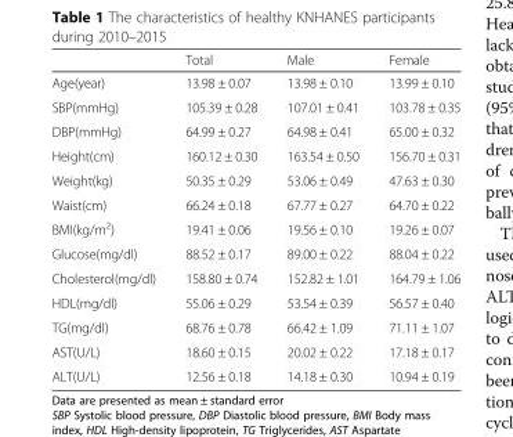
<table><thead><tr><td></td><td>Total</td><td>Male</td><td>Female</td></tr></thead><tbody><tr><td>Age(year)</td><td>13.98 ± 0.07</td><td>13.98 ± 0.10</td><td>13.99 ± 0.10</td></tr><tr><td>SBP(mmHg)</td><td>105.39 ± 0.28</td><td>107.01 ± 0.41</td><td>103.78 ± 0.35</td></tr><tr><td>DBP(mmHg)</td><td>64.99 ± 0.27</td><td>64.98 ± 0.41</td><td>65.00 ± 0.32</td></tr><tr><td>Height(cm)</td><td>160.12 ± 0.30</td><td>163.54 ± 0.50</td><td>156.70 ± 0.31</td></tr><tr><td>Weight(kg)</td><td>50.35 ± 0.29</td><td>53.06 ± 0.49</td><td>47.63 ± 0.30</td></tr><tr><td>Waist(cm)</td><td>66.24 ± 0.18</td><td>67.77 ± 0.27</td><td>64.70 ± 0.22</td></tr><tr><td>BMI(kg/m<sup>2</sup>)</td><td>19.41 ± 0.06</td><td>19.56 ± 0.10</td><td>19.26 ± 0.07</td></tr><tr><td>Glucose(mg/dl)</td><td>88.52 ± 0.17</td><td>89.00 ± 0.22</td><td>88.04 ± 0.22</td></tr><tr><td>Cholesterol(mg/dl)</td><td>158.80 ± 0.74</td><td>152.82 ± 1.01</td><td>164.79 ± 1.06</td></tr><tr><td>HDL(mg/dl)</td><td>55.06 ± 0.29</td><td>53.54 ± 0.39</td><td>56.57 ± 0.40</td></tr><tr><td>TG(mg/dl)</td><td>68.76 ± 0.78</td><td>66.42 ± 1.09</td><td>71.11 ± 1.07</td></tr><tr><td>AST(U/L)</td><td>18.60 ± 0.15</td><td>20.02 ± 0.22</td><td>17.18 ± 0.17</td></tr><tr><td>ALT(U/L)</td><td>12.56 ± 0.18</td><td>14.18 ± 0.30</td><td>10.94 ± 0.19</td></tr></tbody></table>